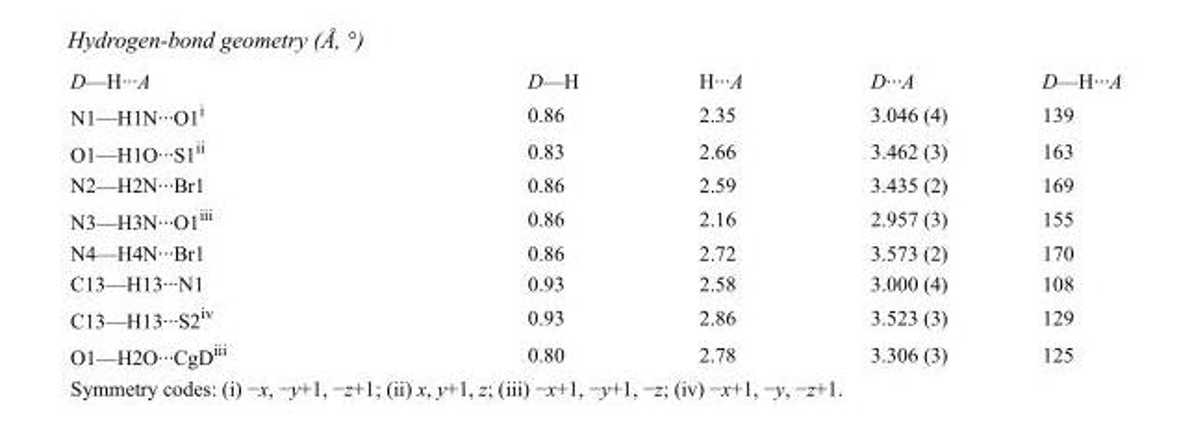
<table><tbody><tr><td>D—H···A</td><td>D—H</td><td>H···A</td><td>D···A</td><td>D—H···A</td></tr><tr><td>N1—H1N···O1<sup>i</sup></td><td>0.86</td><td>2.35</td><td>3.046 (4)</td><td>139</td></tr><tr><td>O1—H1O···S1<sup>ii</sup></td><td>0.83</td><td>2.66</td><td>3.462 (3)</td><td>163</td></tr><tr><td>N2—H2N···Br1</td><td>0.86</td><td>2.59</td><td>3.435 (2)</td><td>169</td></tr><tr><td>N3—H3N···O1<sup>iii</sup></td><td>0.86</td><td>2.16</td><td>2.957 (3)</td><td>155</td></tr><tr><td>N4—H4N···Br1</td><td>0.86</td><td>2.72</td><td>3.573 (2)</td><td>170</td></tr><tr><td>C13—H13···N1</td><td>0.93</td><td>2.58</td><td>3.000 (4)</td><td>108</td></tr><tr><td>C13—H13···S2<sup>iv</sup></td><td>0.93</td><td>2.86</td><td>3.523 (3)</td><td>129</td></tr><tr><td>O1—H2O···CgD<sup>iii</sup></td><td>0.80</td><td>2.78</td><td>3.306 (3)</td><td>125</td></tr></tbody></table>